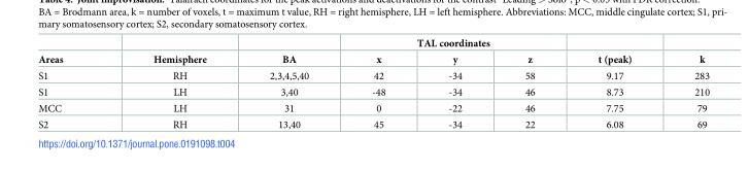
<table><thead><tr><td rowspan="2">Areas</td><td rowspan="2">Hemisphere</td><td rowspan="2">BA</td><td colspan="3">TAL coordinates</td><td rowspan="2">t (peak)</td><td rowspan="2">k</td></tr><tr><td>x</td><td>y</td><td>z</td></tr></thead><tbody><tr><td>S1</td><td>RH</td><td>2,3,4,5,40</td><td>42</td><td>-34</td><td>58</td><td>9.17</td><td>283</td></tr><tr><td>S1</td><td>LH</td><td>3,40</td><td>-48</td><td>-34</td><td>46</td><td>8.73</td><td>210</td></tr><tr><td>MCC</td><td>LH</td><td>31</td><td>0</td><td>-22</td><td>46</td><td>7.75</td><td>79</td></tr><tr><td>S2</td><td>RH</td><td>13,40</td><td>45</td><td>-34</td><td>22</td><td>6.08</td><td>69</td></tr></tbody></table>